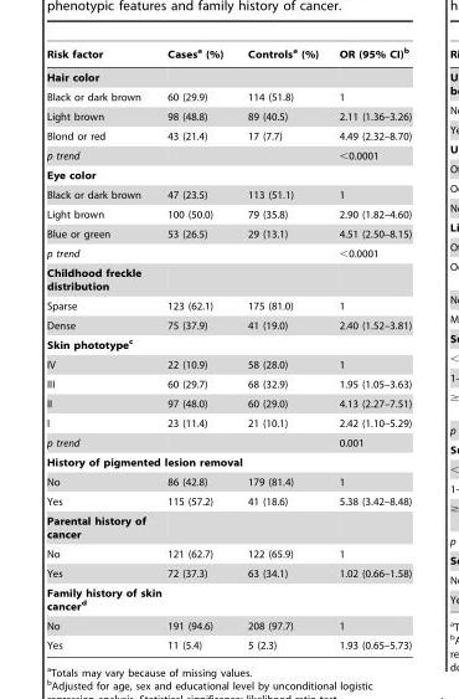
<table><thead><tr><td>Risk factor</td><td>Cases<sup>a</sup> (%)</td><td>Controls<sup>a</sup> (%)</td><td>OR (95% CI)<sup>b</sup></td></tr></thead><tbody><tr><td colspan="4">Hair color</td></tr><tr><td>Black or dark brown</td><td>60 (29.9)</td><td>114 (51.8)</td><td>1</td></tr><tr><td>Light brown</td><td>98 (48.8)</td><td>89 (40.5)</td><td>2.11 (1.36–3.26)</td></tr><tr><td>Blond or red</td><td>43 (21.4)</td><td>17 (7.7)</td><td>4.49 (2.32–8.70)</td></tr><tr><td>p trend</td><td></td><td></td><td>&lt;0.0001</td></tr><tr><td colspan="4">Eye color</td></tr><tr><td>Black or dark brown</td><td>47 (23.5)</td><td>113 (51.1)</td><td>1</td></tr><tr><td>Light brown</td><td>100 (50.0)</td><td>79 (35.8)</td><td>2.90 (1.82–4.60)</td></tr><tr><td>Blue or green</td><td>53 (26.5)</td><td>29 (13.1)</td><td>4.51 (2.50–8.15)</td></tr><tr><td>p trend</td><td></td><td></td><td>&lt;0.0001</td></tr><tr><td colspan="4">Childhood freckle distribution</td></tr><tr><td>Sparse</td><td>123 (62.1)</td><td>175 (81.0)</td><td>1</td></tr><tr><td>Dense</td><td>75 (37.9)</td><td>41 (19.0)</td><td>2.40 (1.52–3.81)</td></tr><tr><td colspan="4">Skin phototypec</td></tr><tr><td>IV</td><td>22 (10.9)</td><td>58 (28.0)</td><td>1</td></tr><tr><td>III</td><td>60 (29.7)</td><td>68 (32.9)</td><td>1.95 (1.05–3.63)</td></tr><tr><td>II</td><td>97 (48.0)</td><td>60 (29.0)</td><td>4.13 (2.27–7.51)</td></tr><tr><td>I</td><td>23 (11.4)</td><td>21 (10.1)</td><td>2.42 (1.10–5.29)</td></tr><tr><td>p trend</td><td></td><td></td><td>0.001</td></tr><tr><td colspan="4">History of pigmented lesion removal</td></tr><tr><td>No</td><td>86 (42.8)</td><td>179 (81.4)</td><td>1</td></tr><tr><td>Yes</td><td>115 (57.2)</td><td>41 (18.6)</td><td>5.38 (3.42–8.48)</td></tr><tr><td colspan="4">Parental history of cancer</td></tr><tr><td>No</td><td>121 (62.7)</td><td>122 (65.9)</td><td>1</td></tr><tr><td>Yes</td><td>72 (37.3)</td><td>63 (34.1)</td><td>1.02 (0.66–1.58)</td></tr><tr><td colspan="4">Family history of skin cancerd</td></tr><tr><td>No</td><td>191 (94.6)</td><td>208 (97.7)</td><td>1</td></tr><tr><td>Yes</td><td>11 (5.4)</td><td>5 (2.3)</td><td>1.93 (0.65–5.73)</td></tr></tbody></table>